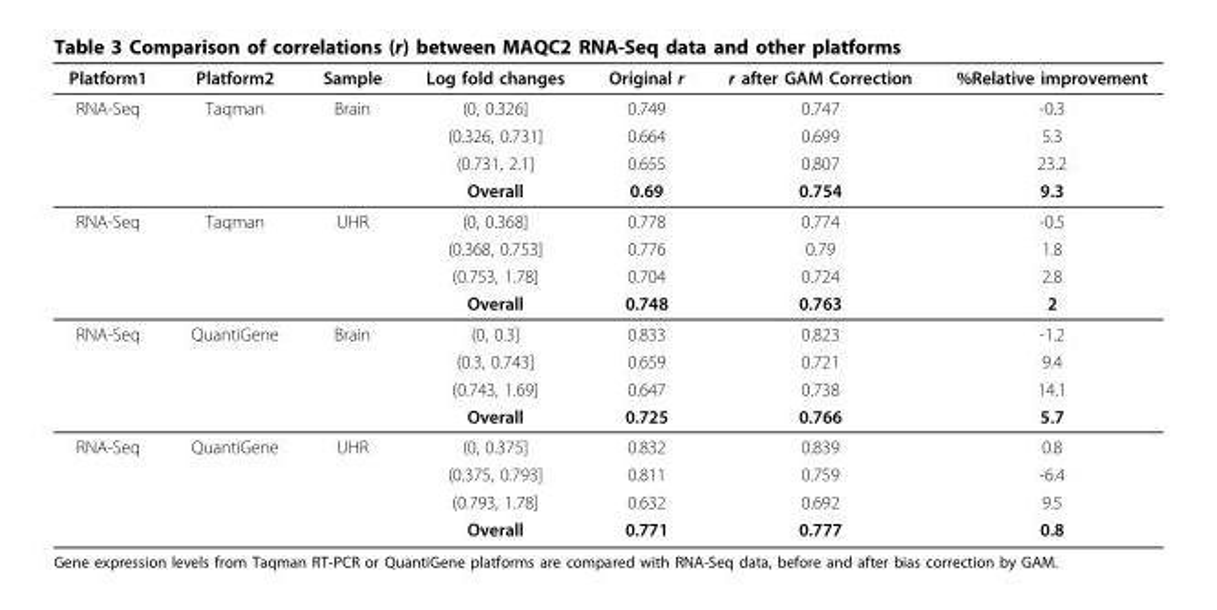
<table><thead><tr><td>Platform1</td><td>Platform2</td><td>Sample</td><td>Log fold changes</td><td>Original r</td><td>r after GAM Correction</td><td>%Relative improvement</td></tr></thead><tbody><tr><td rowspan="4">RNA-Seq</td><td>Taqman</td><td>Brain</td><td>(0, 0.326]</td><td>0.749</td><td>0.747</td><td>-0.3</td></tr><tr><td></td><td></td><td>(0.326, 0.731]</td><td>0.664</td><td>0.699</td><td>5.3</td></tr><tr><td></td><td></td><td>(0.731, 2.1]</td><td>0.655</td><td>0.807</td><td>23.2</td></tr><tr><td></td><td></td><td>Overall</td><td>0.69</td><td>0.754</td><td>9.3</td></tr><tr><td rowspan="4">RNA-Seq</td><td>Taqman</td><td>UHR</td><td>(0, 0.368]</td><td>0.778</td><td>0.774</td><td>-0.5</td></tr><tr><td></td><td></td><td>(0.368, 0.753]</td><td>0.776</td><td>0.79</td><td>1.8</td></tr><tr><td></td><td></td><td>(0.753, 1.78]</td><td>0.704</td><td>0.724</td><td>2.8</td></tr><tr><td></td><td></td><td>Overall</td><td>0.748</td><td>0.763</td><td>2</td></tr><tr><td rowspan="4">RNA-Seq</td><td>QuantiGene</td><td>Brain</td><td>(0, 0.3]</td><td>0.833</td><td>0.823</td><td>-1.2</td></tr><tr><td></td><td></td><td>(0.3, 0.743]</td><td>0.659</td><td>0.721</td><td>9.4</td></tr><tr><td></td><td></td><td>(0.743, 1.69]</td><td>0.647</td><td>0.738</td><td>14.1</td></tr><tr><td></td><td></td><td>Overall</td><td>0.725</td><td>0.766</td><td>5.7</td></tr><tr><td rowspan="4">RNA-Seq</td><td>QuantiGene</td><td>UHR</td><td>(0, 0.375]</td><td>0.832</td><td>0.839</td><td>0.8</td></tr><tr><td></td><td></td><td>(0.375, 0.793]</td><td>0.811</td><td>0.759</td><td>-6.4</td></tr><tr><td></td><td></td><td>(0.793, 1.78]</td><td>0.632</td><td>0.692</td><td>9.5</td></tr><tr><td></td><td></td><td>Overall</td><td>0.771</td><td>0.777</td><td>0.8</td></tr></tbody></table>